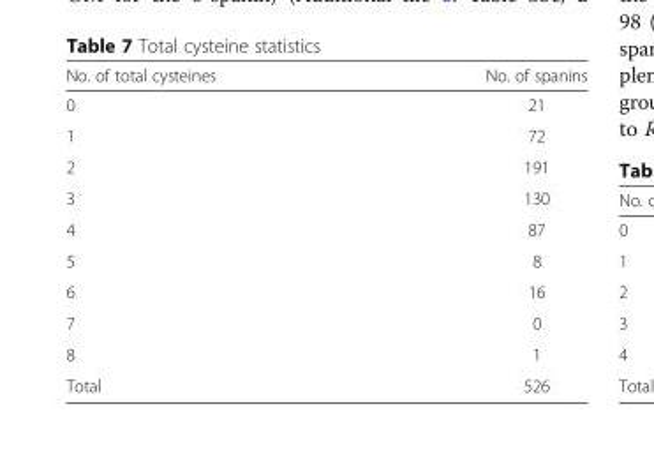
<table><thead><tr><td>No. of total cysteines</td><td>No. of spanins</td></tr></thead><tbody><tr><td>0</td><td>21</td></tr><tr><td>1</td><td>72</td></tr><tr><td>2</td><td>191</td></tr><tr><td>3</td><td>130</td></tr><tr><td>4</td><td>87</td></tr><tr><td>5</td><td>8</td></tr><tr><td>6</td><td>16</td></tr><tr><td>7</td><td>0</td></tr><tr><td>8</td><td>1</td></tr><tr><td>Total</td><td>526</td></tr></tbody></table>